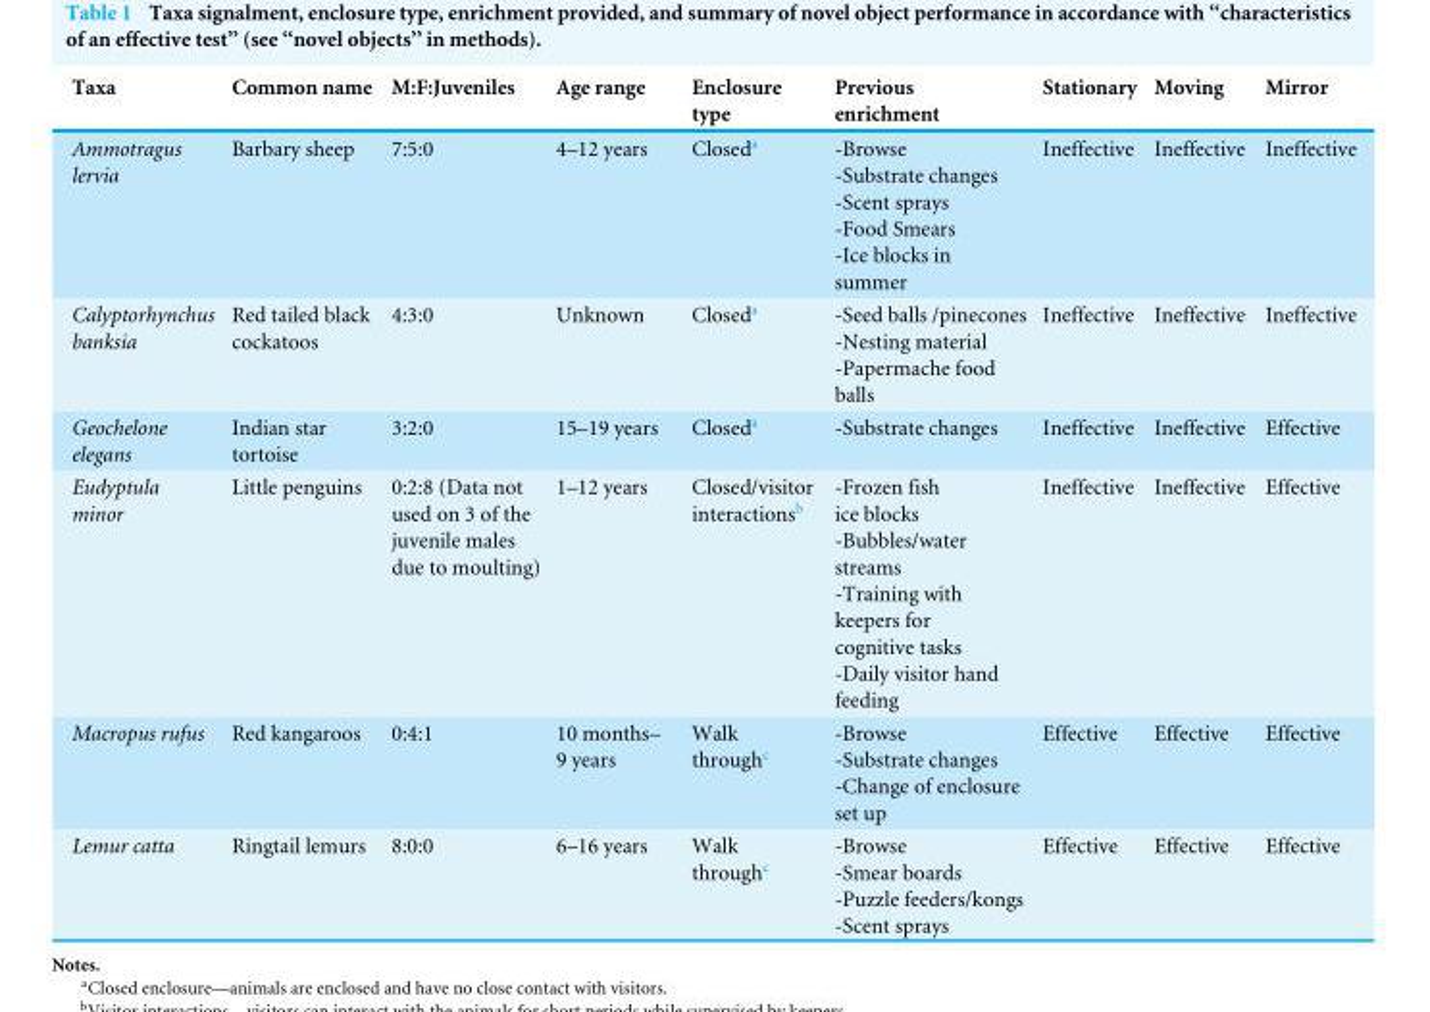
<table><thead><tr><td>Taxa</td><td>Common name</td><td>M:F:Juveniles</td><td>Age range</td><td>Enclosure type</td><td>Previous enrichment</td><td>Stationary</td><td>Moving</td><td>Mirror</td></tr></thead><tbody><tr><td>Ammotragus lervia</td><td>Barbary sheep</td><td>7:5:0</td><td>4–12 years</td><td>Closed<sup>a</sup></td><td>-Browse -Substrate changes -Scent sprays -Food Smears -Ice blocks in summer</td><td>Ineffective</td><td>Ineffective</td><td>Ineffective</td></tr><tr><td>Calyptorhynchus banksia</td><td>Red tailed black cockatoos</td><td>4:3:0</td><td>Unknown</td><td>Closed<sup>a</sup></td><td>-Seed balls /pinecones -Nesting material -Papermache food balls</td><td>Ineffective</td><td>Ineffective</td><td>Ineffective</td></tr><tr><td>Geochelone elegans</td><td>Indian star tortoise</td><td>3:2:0</td><td>15–19 years</td><td>Closed<sup>a</sup></td><td>-Substrate changes</td><td>Ineffective</td><td>Ineffective</td><td>Effective</td></tr><tr><td>Eudyptula minor</td><td>Little penguins</td><td>0:2:8 (Data not used on 3 of the juvenile males due to moulting)</td><td>1–12 years</td><td>Closed/visitor interactions<sup>b</sup></td><td>-Frozen fish ice blocks -Bubbles/water streams -Training with keepers for cognitive tasks -Daily visitor hand feeding</td><td>Ineffective</td><td>Ineffective</td><td>Effective</td></tr><tr><td>Macropus rufus</td><td>Red kangaroos</td><td>0:4:1</td><td>10 months– 9 years</td><td>Walk through<sup>c</sup></td><td>-Browse -Substrate changes -Change of enclosure set up</td><td>Effective</td><td>Effective</td><td>Effective</td></tr><tr><td>Lemur catta</td><td>Ringtail lemurs</td><td>8:0:0</td><td>6–16 years</td><td>Walk through<sup>c</sup></td><td>-Browse -Smear boards -Puzzle feeders/kongs -Scent sprays</td><td>Effective</td><td>Effective</td><td>Effective</td></tr></tbody></table>